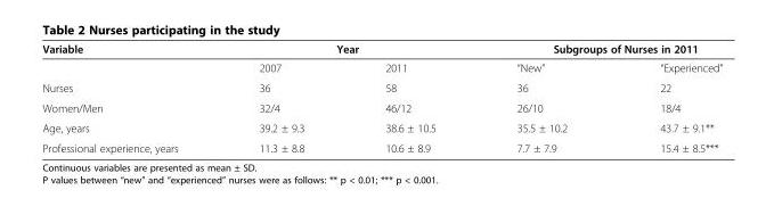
<table><thead><tr><td rowspan="2">Variable</td><td colspan="2">Year</td><td colspan="2">Subgroups of Nurses in 2011</td></tr><tr><td>2007</td><td>2011</td><td>“New”</td><td>“Experienced”</td></tr></thead><tbody><tr><td>Nurses</td><td>36</td><td>58</td><td>36</td><td>22</td></tr><tr><td>Women/Men</td><td>32/4</td><td>46/12</td><td>26/10</td><td>18/4</td></tr><tr><td>Age, years</td><td>39.2 ± 9.3</td><td>38.6 ± 10.5</td><td>35.5 ± 10.2</td><td>43.7 ± 9.1**</td></tr><tr><td>Professional experience, years</td><td>11.3 ± 8.8</td><td>10.6 ± 8.9</td><td>7.7 ± 7.9</td><td>15.4 ± 8.5***</td></tr></tbody></table>